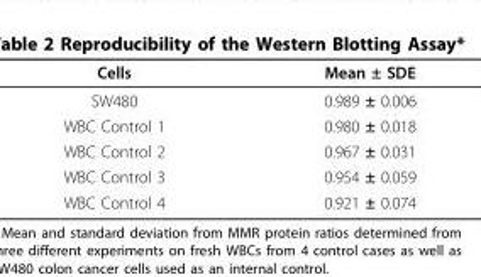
<table><thead><tr><td>Cells</td><td>Mean ± SDE</td></tr></thead><tbody><tr><td>SW480</td><td>0.989 ± 0.006</td></tr><tr><td>WBC Control 1</td><td>0.980 ± 0.018</td></tr><tr><td>WBC Control 2</td><td>0.967 ± 0.031</td></tr><tr><td>WBC Control 3</td><td>0.954 ± 0.059</td></tr><tr><td>WBC Control 4</td><td>0.921 ± 0.074</td></tr></tbody></table>